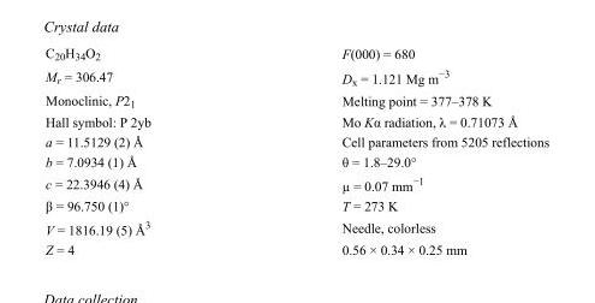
<table><tbody><tr><td>C<sub>20</sub>H<sub>34</sub>O<sub>2</sub></td><td>F(000) = 680</td></tr><tr><td>M<sub>r</sub> = 306.47</td><td>D<sub>x</sub> = 1.121 Mg m<sup>−3</sup></td></tr><tr><td>Monoclinic, P2<sub>1</sub></td><td>Melting point = 377–378 K</td></tr><tr><td>Hall symbol: P 2yb</td><td>Mo Kα radiation, λ = 0.71073 Å</td></tr><tr><td>a = 11.5129 (2) Å</td><td>Cell parameters from 5205 reflections</td></tr><tr><td>b = 7.0934 (1) Å</td><td>θ = 1.8–29.0°</td></tr><tr><td>c = 22.3946 (4) Å</td><td>µ = 0.07 mm<sup>−1</sup></td></tr><tr><td>β = 96.750 (1)°</td><td>T = 273 K</td></tr><tr><td>V = 1816.19 (5) Å<sup>3</sup></td><td>Needle, colorless</td></tr><tr><td>Z = 4</td><td>0.56 × 0.34 × 0.25 mm</td></tr></tbody></table>